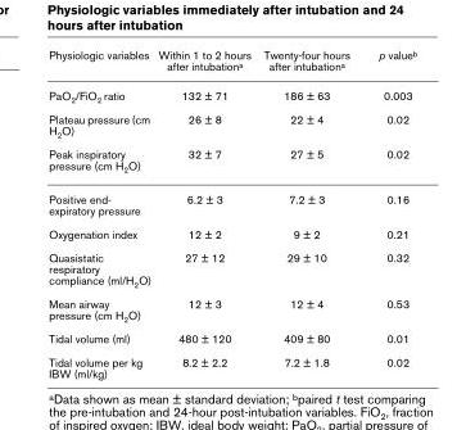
<table><thead><tr><td>Physiologic variables</td><td>Within 1 to 2 hours after intubationa</td><td>Twenty-four hours after intubationa</td><td>p valueb</td></tr></thead><tbody><tr><td>PaO2/FiO2 ratio</td><td>132 ± 71</td><td>186 ± 63</td><td>0.003</td></tr><tr><td>Plateau pressure (cm H2O)</td><td>26 ± 8</td><td>22 ± 4</td><td>0.02</td></tr><tr><td>Peak inspiratory pressure (cm H2O)</td><td>32 ± 7</td><td>27 ± 5</td><td>0.02</td></tr><tr><td>Positive end- expiratory pressure</td><td>6.2 ± 3</td><td>7.2 ± 3</td><td>0.16</td></tr><tr><td>Oxygenation index</td><td>12 ± 2</td><td>9 ± 2</td><td>0.21</td></tr><tr><td>Quasistatic respiratory compliance (ml/H2O)</td><td>27 ± 12</td><td>29 ± 10</td><td>0.32</td></tr><tr><td>Mean airway pressure (cm H2O)</td><td>12 ± 3</td><td>12 ± 4</td><td>0.53</td></tr><tr><td>Tidal volume (ml)</td><td>480 ± 120</td><td>409 ± 80</td><td>0.01</td></tr><tr><td>Tidal volume per kg IBW (ml/kg)</td><td>8.2 ± 2.2</td><td>7.2 ± 1.8</td><td>0.02</td></tr></tbody></table>